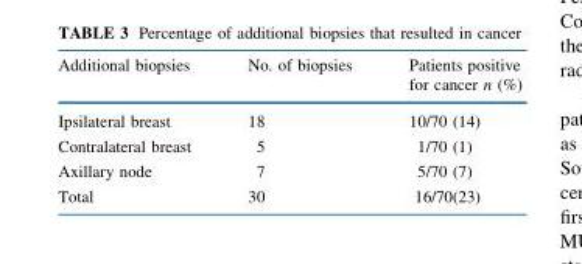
<table><thead><tr><td>Additional biopsies</td><td>No. of biopsies</td><td>Patients positive for cancer n (%)</td></tr></thead><tbody><tr><td>Ipsilateral breast</td><td>18</td><td>10/70 (14)</td></tr><tr><td>Contralateral breast</td><td>5</td><td>1/70 (1)</td></tr><tr><td>Axillary node</td><td>7</td><td>5/70 (7)</td></tr><tr><td>Total</td><td>30</td><td>16/70(23)</td></tr></tbody></table>